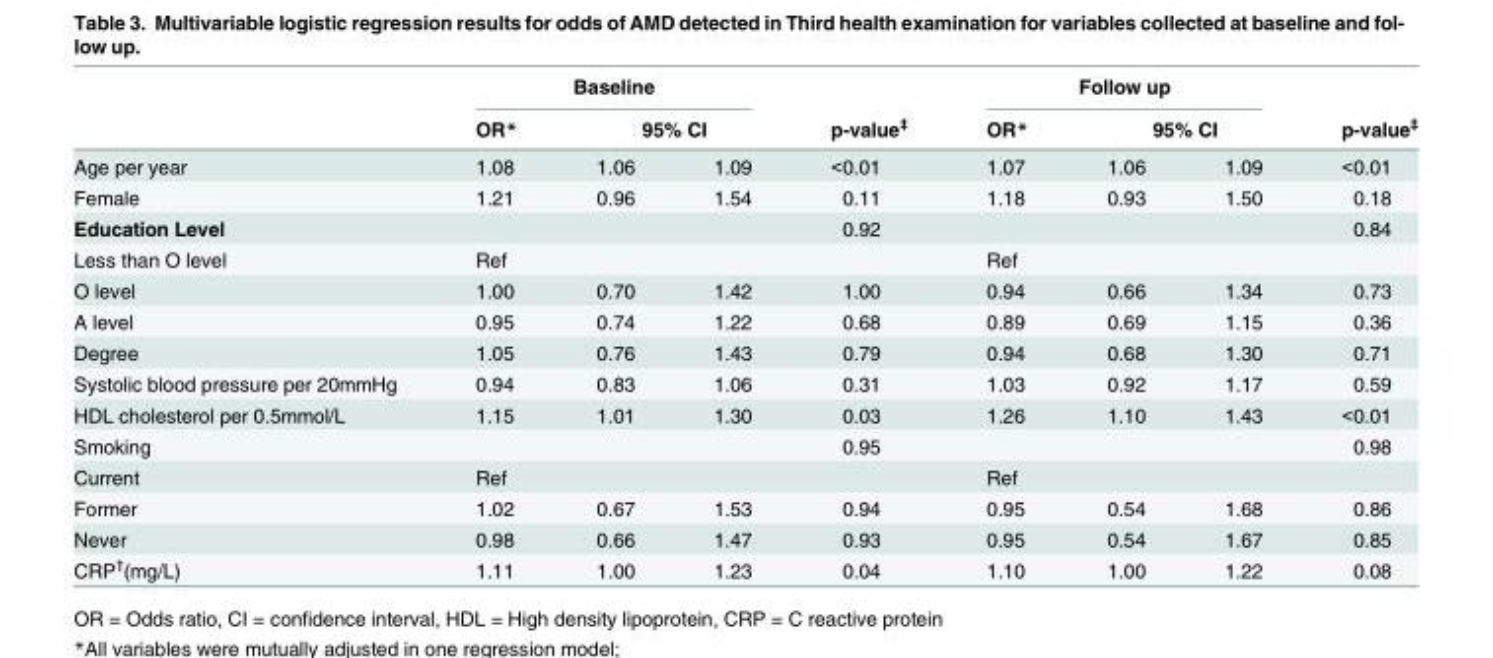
<table><thead><tr><td rowspan="3">Age per year</td><td colspan="3">Baseline</td><td rowspan="3">p-value<sup>‡</sup> &lt;0.01</td><td colspan="3">Follow up</td><td rowspan="3">p-value<sup>‡</sup> &lt;0.01</td></tr><tr><td rowspan="2">OR* 1.08</td><td colspan="2">95% CI</td><td rowspan="2">OR* 1.07</td><td colspan="2">95% CI</td></tr><tr><td>1.06</td><td>1.09</td><td>1.06</td><td>1.09</td></tr></thead><tbody><tr><td>Female</td><td>1.21</td><td>0.96</td><td>1.54</td><td>0.11</td><td>1.18</td><td>0.93</td><td>1.50</td><td>0.18</td></tr><tr><td>Education Level</td><td></td><td></td><td></td><td>0.92</td><td></td><td></td><td></td><td>0.84</td></tr><tr><td>Less than O level</td><td>Ref</td><td></td><td></td><td></td><td>Ref</td><td></td><td></td><td></td></tr><tr><td>O level</td><td>1.00</td><td>0.70</td><td>1.42</td><td>1.00</td><td>0.94</td><td>0.66</td><td>1.34</td><td>0.73</td></tr><tr><td>A level</td><td>0.95</td><td>0.74</td><td>1.22</td><td>0.68</td><td>0.89</td><td>0.69</td><td>1.15</td><td>0.36</td></tr><tr><td>Degree</td><td>1.05</td><td>0.76</td><td>1.43</td><td>0.79</td><td>0.94</td><td>0.68</td><td>1.30</td><td>0.71</td></tr><tr><td>Systolic blood pressure per 20mmHg</td><td>0.94</td><td>0.83</td><td>1.06</td><td>0.31</td><td>1.03</td><td>0.92</td><td>1.17</td><td>0.59</td></tr><tr><td>HDL cholesterol per 0.5mmol/L</td><td>1.15</td><td>1.01</td><td>1.30</td><td>0.03</td><td>1.26</td><td>1.10</td><td>1.43</td><td>&lt;0.01</td></tr><tr><td>Smoking</td><td></td><td></td><td></td><td>0.95</td><td></td><td></td><td></td><td>0.98</td></tr><tr><td>Current</td><td>Ref</td><td></td><td></td><td></td><td>Ref</td><td></td><td></td><td></td></tr><tr><td>Former</td><td>1.02</td><td>0.67</td><td>1.53</td><td>0.94</td><td>0.95</td><td>0.54</td><td>1.68</td><td>0.86</td></tr><tr><td>Never</td><td>0.98</td><td>0.66</td><td>1.47</td><td>0.93</td><td>0.95</td><td>0.54</td><td>1.67</td><td>0.85</td></tr><tr><td>CRP<sup>†</sup>(mg/L)</td><td>1.11</td><td>1.00</td><td>1.23</td><td>0.04</td><td>1.10</td><td>1.00</td><td>1.22</td><td>0.08</td></tr></tbody></table>